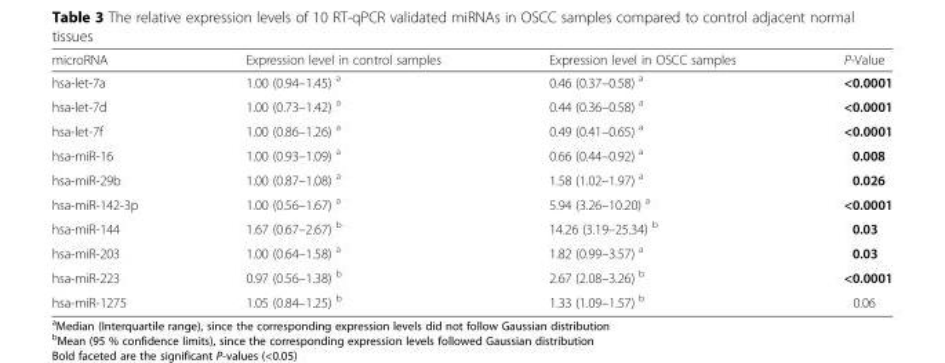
<table><thead><tr><td>microRNA</td><td>Expression level in control samples</td><td>Expression level in OSCC samples</td><td>P-Value</td></tr></thead><tbody><tr><td>hsa-let-7a</td><td>1.00 (0.94–1.45) <sup>a</sup></td><td>0.46 (0.37–0.58) <sup>a</sup></td><td>&lt;0.0001</td></tr><tr><td>hsa-let-7d</td><td>1.00 (0.73–1.42) <sup>a</sup></td><td>0.44 (0.36–0.58) <sup>a</sup></td><td>&lt;0.0001</td></tr><tr><td>hsa-let-7f</td><td>1.00 (0.86–1.26) <sup>a</sup></td><td>0.49 (0.41–0.65) <sup>a</sup></td><td>&lt;0.0001</td></tr><tr><td>hsa-miR-16</td><td>1.00 (0.93–1.09) <sup>a</sup></td><td>0.66 (0.44–0.92) <sup>a</sup></td><td>0.008</td></tr><tr><td>hsa-miR-29b</td><td>1.00 (0.87–1.08) <sup>a</sup></td><td>1.58 (1.02–1.97) <sup>a</sup></td><td>0.026</td></tr><tr><td>hsa-miR-142-3p</td><td>1.00 (0.56–1.67) <sup>a</sup></td><td>5.94 (3.26–10.20) <sup>a</sup></td><td>&lt;0.0001</td></tr><tr><td>hsa-miR-144</td><td>1.67 (0.67–2.67) <sup>b</sup></td><td>14.26 (3.19–25.34) <sup>b</sup></td><td>0.03</td></tr><tr><td>hsa-miR-203</td><td>1.00 (0.64–1.58) <sup>a</sup></td><td>1.82 (0.99–3.57) <sup>a</sup></td><td>0.03</td></tr><tr><td>hsa-miR-223</td><td>0.97 (0.56–1.38) <sup>b</sup></td><td>2.67 (2.08–3.26) <sup>b</sup></td><td>&lt;0.0001</td></tr><tr><td>hsa-miR-1275</td><td>1.05 (0.84–1.25) <sup>b</sup></td><td>1.33 (1.09–1.57) <sup>b</sup></td><td>0.06</td></tr></tbody></table>